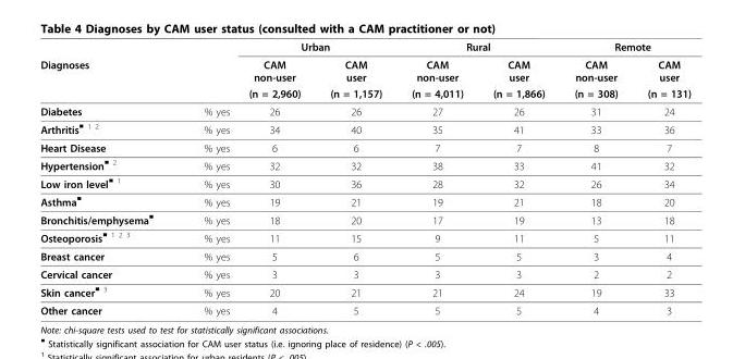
<table><thead><tr><td></td><td></td><td colspan="2">Urban</td><td colspan="2">Rural</td><td colspan="2">Remote</td></tr><tr><td colspan="2">Diagnoses</td><td rowspan="2">CAM non-user (n = 2,960)</td><td rowspan="2">CAM user (n = 1,157)</td><td rowspan="2">CAM non-user (n = 4,011)</td><td rowspan="2">CAM user (n = 1,866)</td><td rowspan="2">CAM non-user (n = 308)</td><td rowspan="2">CAM user (n = 131)</td></tr><tr><td></td><td></td></tr></thead><tbody><tr><td>Diabetes</td><td>% yes</td><td>26</td><td>26</td><td>27</td><td>26</td><td>31</td><td>24</td></tr><tr><td>Arthritis■ 1 2</td><td>% yes</td><td>34</td><td>40</td><td>35</td><td>41</td><td>33</td><td>36</td></tr><tr><td>Heart Disease</td><td>% yes</td><td>6</td><td>6</td><td>7</td><td>7</td><td>8</td><td>7</td></tr><tr><td>Hypertension■ 2</td><td>% yes</td><td>32</td><td>32</td><td>38</td><td>33</td><td>41</td><td>32</td></tr><tr><td>Low iron level■ 1</td><td>% yes</td><td>30</td><td>36</td><td>28</td><td>32</td><td>26</td><td>34</td></tr><tr><td>Asthma■</td><td>% yes</td><td>19</td><td>21</td><td>19</td><td>21</td><td>18</td><td>20</td></tr><tr><td>Bronchitis/emphysema■</td><td>% yes</td><td>18</td><td>20</td><td>17</td><td>19</td><td>13</td><td>18</td></tr><tr><td>Osteoporosis■ 1 2 3</td><td>% yes</td><td>11</td><td>15</td><td>9</td><td>11</td><td>5</td><td>11</td></tr><tr><td>Breast cancer</td><td>% yes</td><td>5</td><td>6</td><td>5</td><td>5</td><td>3</td><td>4</td></tr><tr><td>Cervical cancer</td><td>% yes</td><td>3</td><td>3</td><td>3</td><td>3</td><td>2</td><td>2</td></tr><tr><td>Skin cancer■ 3</td><td>% yes</td><td>20</td><td>21</td><td>21</td><td>24</td><td>19</td><td>33</td></tr><tr><td>Other cancer</td><td>% yes</td><td>4</td><td>5</td><td>5</td><td>5</td><td>4</td><td>3</td></tr></tbody></table>